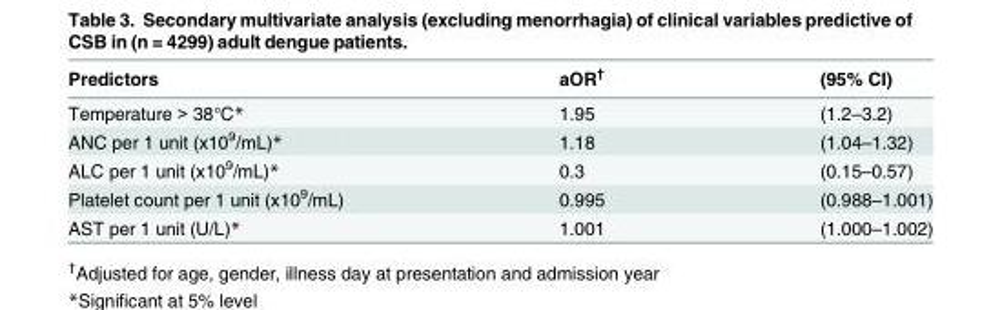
<table><thead><tr><td>Predictors</td><td>aOR<sup>†</sup></td><td>(95% CI)</td></tr></thead><tbody><tr><td>Temperature &gt; 38°C*</td><td>1.95</td><td>(1.2–3.2)</td></tr><tr><td>ANC per 1 unit (x10<sup>9</sup>/mL)*</td><td>1.18</td><td>(1.04–1.32)</td></tr><tr><td>ALC per 1 unit (x10<sup>9</sup>/mL)*</td><td>0.3</td><td>(0.15–0.57)</td></tr><tr><td>Platelet count per 1 unit (x10<sup>9</sup>/mL)</td><td>0.995</td><td>(0.988–1.001)</td></tr><tr><td>AST per 1 unit (U/L)*</td><td>1.001</td><td>(1.000–1.002)</td></tr></tbody></table>